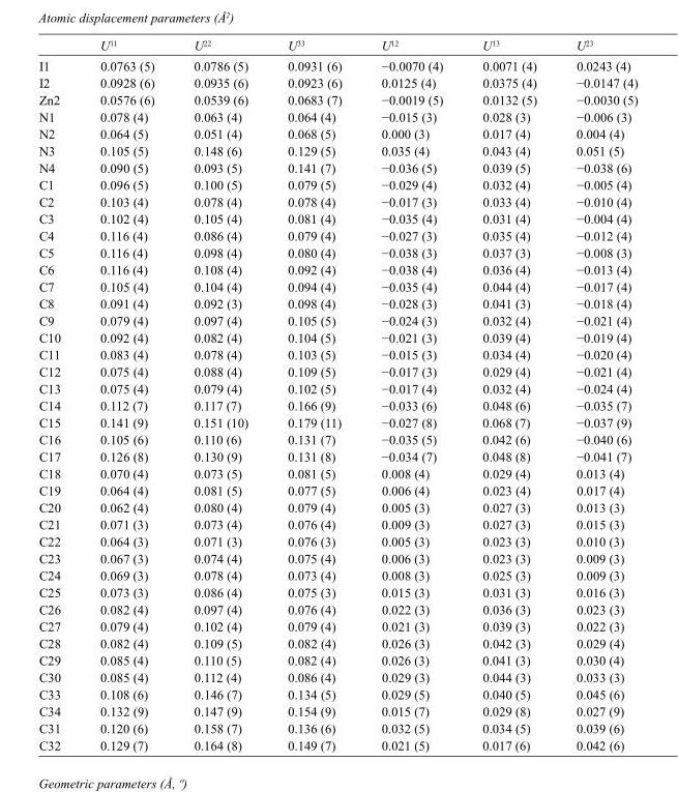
<table><thead><tr><td></td><td>U<sup>11</sup></td><td>U<sup>22</sup></td><td>U<sup>33</sup></td><td>U<sup>12</sup></td><td>U<sup>13</sup></td><td>U<sup>23</sup></td></tr></thead><tbody><tr><td>I1</td><td>0.0763 (5)</td><td>0.0786 (5)</td><td>0.0931 (6)</td><td>−0.0070 (4)</td><td>0.0071 (4)</td><td>0.0243 (4)</td></tr><tr><td>I2</td><td>0.0928 (6)</td><td>0.0935 (6)</td><td>0.0923 (6)</td><td>0.0125 (4)</td><td>0.0375 (4)</td><td>−0.0147 (4)</td></tr><tr><td>Zn2</td><td>0.0576 (6)</td><td>0.0539 (6)</td><td>0.0683 (7)</td><td>−0.0019 (5)</td><td>0.0132 (5)</td><td>−0.0030 (5)</td></tr><tr><td>N1</td><td>0.078 (4)</td><td>0.063 (4)</td><td>0.064 (4)</td><td>−0.015 (3)</td><td>0.028 (3)</td><td>−0.006 (3)</td></tr><tr><td>N2</td><td>0.064 (5)</td><td>0.051 (4)</td><td>0.068 (5)</td><td>0.000 (3)</td><td>0.017 (4)</td><td>0.004 (4)</td></tr><tr><td>N3</td><td>0.105 (5)</td><td>0.148 (6)</td><td>0.129 (5)</td><td>0.035 (4)</td><td>0.043 (4)</td><td>0.051 (5)</td></tr><tr><td>N4</td><td>0.090 (5)</td><td>0.093 (5)</td><td>0.141 (7)</td><td>−0.036 (5)</td><td>0.039 (5)</td><td>−0.038 (6)</td></tr><tr><td>C1</td><td>0.096 (5)</td><td>0.100 (5)</td><td>0.079 (5)</td><td>−0.029 (4)</td><td>0.032 (4)</td><td>−0.005 (4)</td></tr><tr><td>C2</td><td>0.103 (4)</td><td>0.078 (4)</td><td>0.078 (4)</td><td>−0.017 (3)</td><td>0.033 (4)</td><td>−0.010 (4)</td></tr><tr><td>C3</td><td>0.102 (4)</td><td>0.105 (4)</td><td>0.081 (4)</td><td>−0.035 (4)</td><td>0.031 (4)</td><td>−0.004 (4)</td></tr><tr><td>C4</td><td>0.116 (4)</td><td>0.086 (4)</td><td>0.079 (4)</td><td>−0.027 (3)</td><td>0.035 (4)</td><td>−0.012 (4)</td></tr><tr><td>C5</td><td>0.116 (4)</td><td>0.098 (4)</td><td>0.080 (4)</td><td>−0.038 (3)</td><td>0.037 (3)</td><td>−0.008 (3)</td></tr><tr><td>C6</td><td>0.116 (4)</td><td>0.108 (4)</td><td>0.092 (4)</td><td>−0.038 (4)</td><td>0.036 (4)</td><td>−0.013 (4)</td></tr><tr><td>C7</td><td>0.105 (4)</td><td>0.104 (4)</td><td>0.094 (4)</td><td>−0.035 (4)</td><td>0.044 (4)</td><td>−0.017 (4)</td></tr><tr><td>C8</td><td>0.091 (4)</td><td>0.092 (3)</td><td>0.098 (4)</td><td>−0.028 (3)</td><td>0.041 (3)</td><td>−0.018 (4)</td></tr><tr><td>C9</td><td>0.079 (4)</td><td>0.097 (4)</td><td>0.105 (5)</td><td>−0.024 (3)</td><td>0.032 (4)</td><td>−0.021 (4)</td></tr><tr><td>C10</td><td>0.092 (4)</td><td>0.082 (4)</td><td>0.104 (5)</td><td>−0.021 (3)</td><td>0.039 (4)</td><td>−0.019 (4)</td></tr><tr><td>C11</td><td>0.083 (4)</td><td>0.078 (4)</td><td>0.103 (5)</td><td>−0.015 (3)</td><td>0.034 (4)</td><td>−0.020 (4)</td></tr><tr><td>C12</td><td>0.075 (4)</td><td>0.088 (4)</td><td>0.109 (5)</td><td>−0.017 (3)</td><td>0.029 (4)</td><td>−0.021 (4)</td></tr><tr><td>C13</td><td>0.075 (4)</td><td>0.079 (4)</td><td>0.102 (5)</td><td>−0.017 (4)</td><td>0.032 (4)</td><td>−0.024 (4)</td></tr><tr><td>C14</td><td>0.112 (7)</td><td>0.117 (7)</td><td>0.166 (9)</td><td>−0.033 (6)</td><td>0.048 (6)</td><td>−0.035 (7)</td></tr><tr><td>C15</td><td>0.141 (9)</td><td>0.151 (10)</td><td>0.179 (11)</td><td>−0.027 (8)</td><td>0.068 (7)</td><td>−0.037 (9)</td></tr><tr><td>C16</td><td>0.105 (6)</td><td>0.110 (6)</td><td>0.131 (7)</td><td>−0.035 (5)</td><td>0.042 (6)</td><td>−0.040 (6)</td></tr><tr><td>C17</td><td>0.126 (8)</td><td>0.130 (9)</td><td>0.131 (8)</td><td>−0.034 (7)</td><td>0.048 (8)</td><td>−0.041 (7)</td></tr><tr><td>C18</td><td>0.070 (4)</td><td>0.073 (5)</td><td>0.081 (5)</td><td>0.008 (4)</td><td>0.029 (4)</td><td>0.013 (4)</td></tr><tr><td>C19</td><td>0.064 (4)</td><td>0.081 (5)</td><td>0.077 (5)</td><td>0.006 (4)</td><td>0.023 (4)</td><td>0.017 (4)</td></tr><tr><td>C20</td><td>0.062 (4)</td><td>0.080 (4)</td><td>0.079 (4)</td><td>0.005 (3)</td><td>0.027 (3)</td><td>0.013 (3)</td></tr><tr><td>C21</td><td>0.071 (3)</td><td>0.073 (4)</td><td>0.076 (4)</td><td>0.009 (3)</td><td>0.027 (3)</td><td>0.015 (3)</td></tr><tr><td>C22</td><td>0.064 (3)</td><td>0.071 (3)</td><td>0.076 (3)</td><td>0.005 (3)</td><td>0.023 (3)</td><td>0.010 (3)</td></tr><tr><td>C23</td><td>0.067 (3)</td><td>0.074 (4)</td><td>0.075 (4)</td><td>0.006 (3)</td><td>0.023 (3)</td><td>0.009 (3)</td></tr><tr><td>C24</td><td>0.069 (3)</td><td>0.078 (4)</td><td>0.073 (4)</td><td>0.008 (3)</td><td>0.025 (3)</td><td>0.009 (3)</td></tr><tr><td>C25</td><td>0.073 (3)</td><td>0.086 (4)</td><td>0.075 (3)</td><td>0.015 (3)</td><td>0.031 (3)</td><td>0.016 (3)</td></tr><tr><td>C26</td><td>0.082 (4)</td><td>0.097 (4)</td><td>0.076 (4)</td><td>0.022 (3)</td><td>0.036 (3)</td><td>0.023 (3)</td></tr><tr><td>C27</td><td>0.079 (4)</td><td>0.102 (4)</td><td>0.079 (4)</td><td>0.021 (3)</td><td>0.039 (3)</td><td>0.022 (3)</td></tr><tr><td>C28</td><td>0.082 (4)</td><td>0.109 (5)</td><td>0.082 (4)</td><td>0.026 (3)</td><td>0.042 (3)</td><td>0.029 (4)</td></tr><tr><td>C29</td><td>0.085 (4)</td><td>0.110 (5)</td><td>0.082 (4)</td><td>0.026 (3)</td><td>0.041 (3)</td><td>0.030 (4)</td></tr><tr><td>C30</td><td>0.085 (4)</td><td>0.112 (4)</td><td>0.086 (4)</td><td>0.029 (3)</td><td>0.044 (3)</td><td>0.033 (3)</td></tr><tr><td>C33</td><td>0.108 (6)</td><td>0.146 (7)</td><td>0.134 (5)</td><td>0.029 (5)</td><td>0.040 (5)</td><td>0.045 (6)</td></tr><tr><td>C34</td><td>0.132 (9)</td><td>0.147 (9)</td><td>0.154 (9)</td><td>0.015 (7)</td><td>0.029 (8)</td><td>0.027 (9)</td></tr><tr><td>C31</td><td>0.120 (6)</td><td>0.158 (7)</td><td>0.136 (6)</td><td>0.032 (5)</td><td>0.034 (5)</td><td>0.039 (6)</td></tr><tr><td>C32</td><td>0.129 (7)</td><td>0.164 (8)</td><td>0.149 (7)</td><td>0.021 (5)</td><td>0.017 (6)</td><td>0.042 (6)</td></tr></tbody></table>